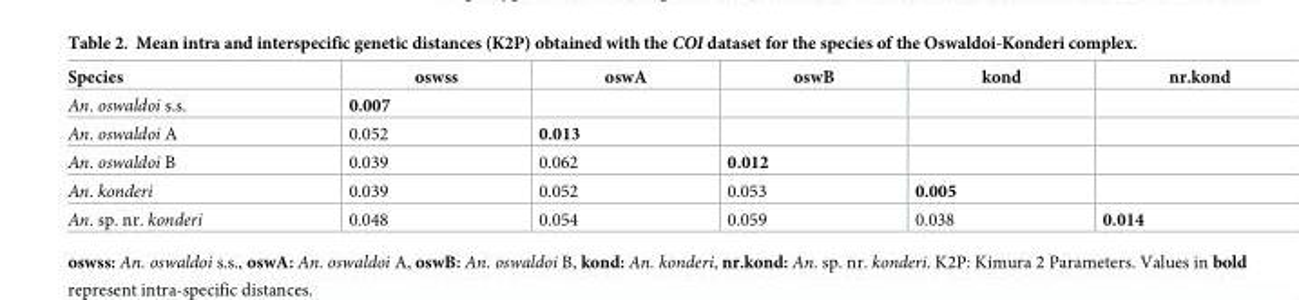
<table><thead><tr><td>Species</td><td>oswss</td><td>oswA</td><td>oswB</td><td>kond</td><td>nr.kond</td></tr></thead><tbody><tr><td>An. oswaldoi s.s.</td><td>0.007</td><td></td><td></td><td></td><td></td></tr><tr><td>An. oswaldoi A</td><td>0.052</td><td>0.013</td><td></td><td></td><td></td></tr><tr><td>An. oswaldoi B</td><td>0.039</td><td>0.062</td><td>0.012</td><td></td><td></td></tr><tr><td>An. konderi</td><td>0.039</td><td>0.052</td><td>0.053</td><td>0.005</td><td></td></tr><tr><td>An. sp. nr. konderi</td><td>0.048</td><td>0.054</td><td>0.059</td><td>0.038</td><td>0.014</td></tr></tbody></table>